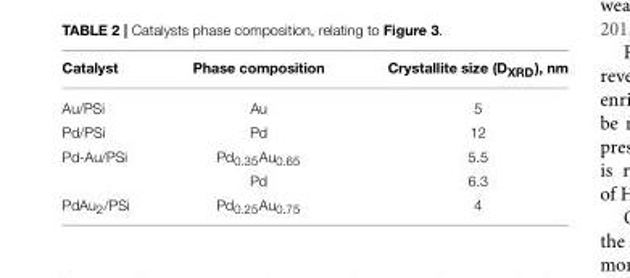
<table><thead><tr><td>Catalyst</td><td>Phase composition</td><td>Crystallite size (D<sub>XRD</sub>), nm</td></tr></thead><tbody><tr><td>Au/PSi</td><td>Au</td><td>5</td></tr><tr><td>Pd/PSi</td><td>Pd</td><td>12</td></tr><tr><td rowspan="2">Pd-Au/PSi</td><td>Pd<sub>0.35</sub>Au<sub>0.65</sub></td><td>5.5</td></tr><tr><td>Pd</td><td>6.3</td></tr><tr><td>PdAu<sub>2</sub>/PSi</td><td>Pd<sub>0.25</sub>Au<sub>0.75</sub></td><td>4</td></tr></tbody></table>